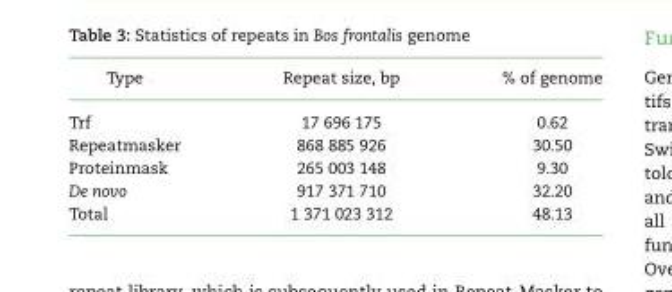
<table><thead><tr><td>Type</td><td>Repeat size, bp</td><td>% of genome</td></tr></thead><tbody><tr><td>Trf</td><td>17 696 175</td><td>0.62</td></tr><tr><td>Repeatmasker</td><td>868 885 926</td><td>30.50</td></tr><tr><td>Proteinmask</td><td>265 003 148</td><td>9.30</td></tr><tr><td>De novo</td><td>917 371 710</td><td>32.20</td></tr><tr><td>Total</td><td>1 371 023 312</td><td>48.13</td></tr></tbody></table>